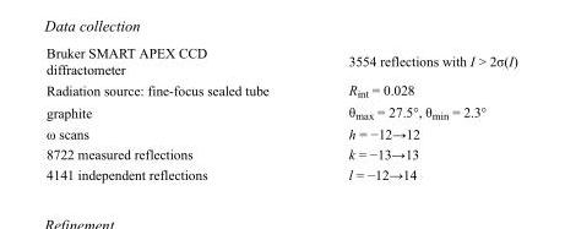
<table><tbody><tr><td>Bruker SMART APEX CCD diffractometer</td><td>3554 reflections with I &gt; 2σ(I)</td></tr><tr><td>Radiation source: fine-focus sealed tube</td><td>R<sub>int</sub> = 0.028</td></tr><tr><td>graphite</td><td>θ<sub>max</sub> = 27.5°, θ<sub>min</sub> = 2.3°</td></tr><tr><td>ω scans</td><td>h = −12→12</td></tr><tr><td>8722 measured reflections</td><td>k = −13→13</td></tr><tr><td>4141 independent reflections</td><td>l = −12→14</td></tr></tbody></table>